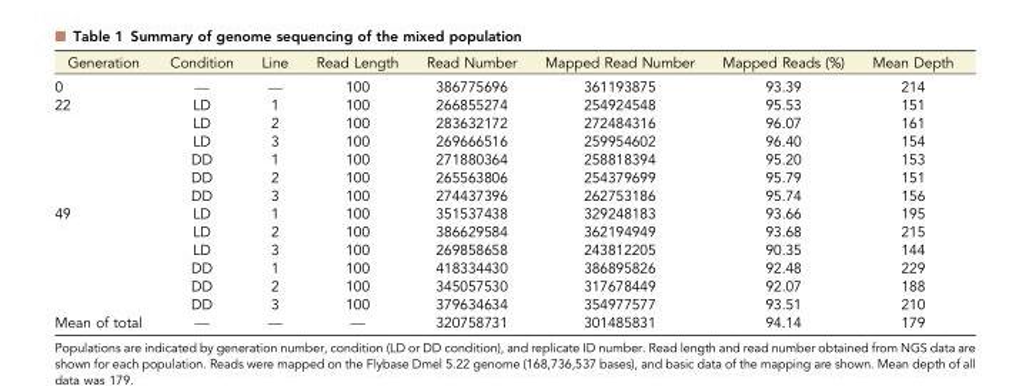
<table><thead><tr><td>Generation</td><td>Condition</td><td>Line</td><td>Read Length</td><td>Read Number</td><td>Mapped Read Number</td><td>Mapped Reads (%)</td><td>Mean Depth</td></tr></thead><tbody><tr><td>0</td><td>—</td><td>—</td><td>100</td><td>386775696</td><td>361193875</td><td>93.39</td><td>214</td></tr><tr><td rowspan="6">22</td><td>LD</td><td>1</td><td>100</td><td>266855274</td><td>254924548</td><td>95.53</td><td>151</td></tr><tr><td>LD</td><td>2</td><td>100</td><td>283632172</td><td>272484316</td><td>96.07</td><td>161</td></tr><tr><td>LD</td><td>3</td><td>100</td><td>269666516</td><td>259954602</td><td>96.40</td><td>154</td></tr><tr><td>DD</td><td>1</td><td>100</td><td>271880364</td><td>258818394</td><td>95.20</td><td>153</td></tr><tr><td>DD</td><td>2</td><td>100</td><td>265563806</td><td>254379699</td><td>95.79</td><td>151</td></tr><tr><td>DD</td><td>3</td><td>100</td><td>274437396</td><td>262753186</td><td>95.74</td><td>156</td></tr><tr><td rowspan="6">49</td><td>LD</td><td>1</td><td>100</td><td>351537438</td><td>329248183</td><td>93.66</td><td>195</td></tr><tr><td>LD</td><td>2</td><td>100</td><td>386629584</td><td>362194949</td><td>93.68</td><td>215</td></tr><tr><td>LD</td><td>3</td><td>100</td><td>269858658</td><td>243812205</td><td>90.35</td><td>144</td></tr><tr><td>DD</td><td>1</td><td>100</td><td>418334430</td><td>386895826</td><td>92.48</td><td>229</td></tr><tr><td>DD</td><td>2</td><td>100</td><td>345057530</td><td>317678449</td><td>92.07</td><td>188</td></tr><tr><td>DD</td><td>3</td><td>100</td><td>379634634</td><td>354977577</td><td>93.51</td><td>210</td></tr><tr><td>Mean of total</td><td>—</td><td>—</td><td>—</td><td>320758731</td><td>301485831</td><td>94.14</td><td>179</td></tr></tbody></table>